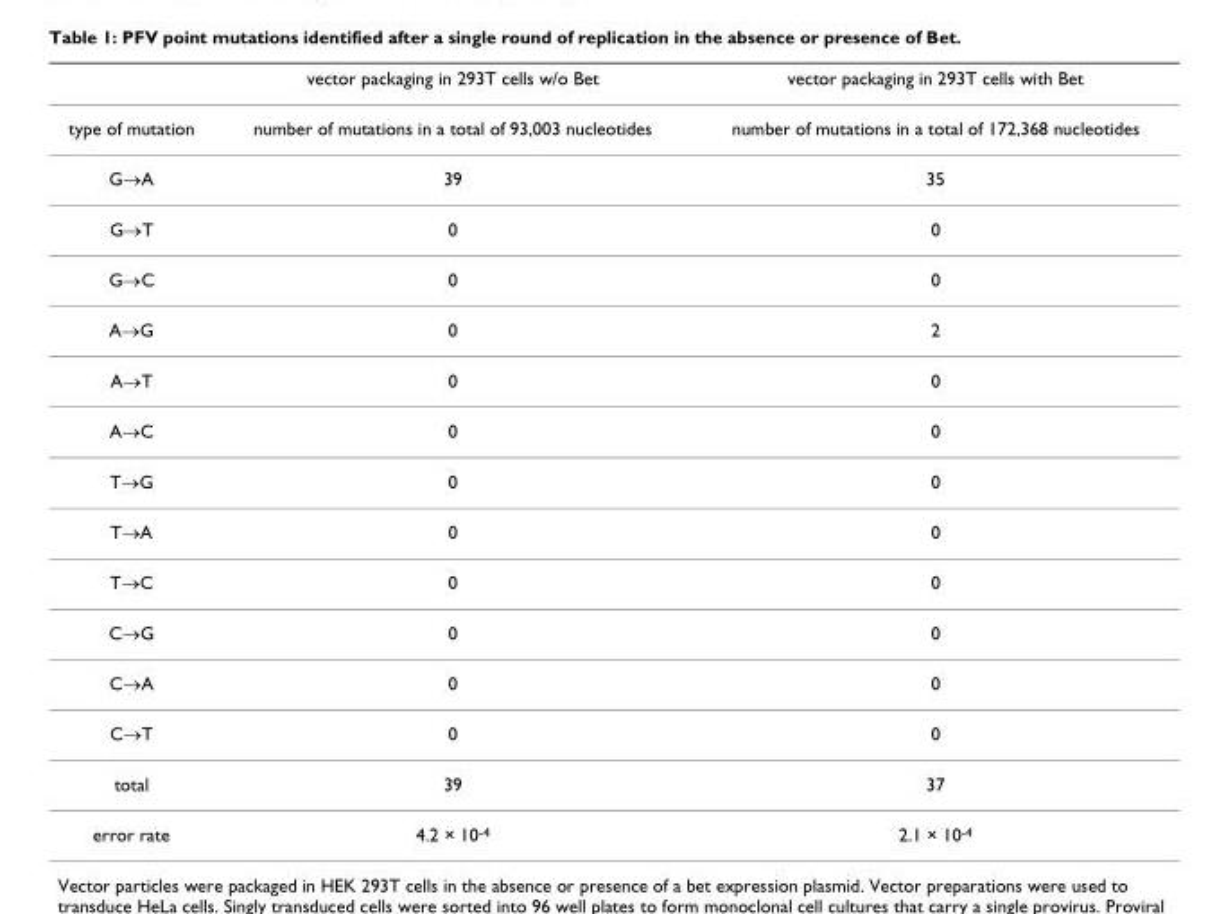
<table><thead><tr><td></td><td>vector packaging in 293T cells w/o Bet</td><td>vector packaging in 293T cells with Bet</td></tr></thead><tbody><tr><td>type of mutation</td><td>number of mutations in a total of 93,003 nucleotides</td><td>number of mutations in a total of 172,368 nucleotides</td></tr><tr><td>G→A</td><td>39</td><td>35</td></tr><tr><td>G→T</td><td>0</td><td>0</td></tr><tr><td>G→C</td><td>0</td><td>0</td></tr><tr><td>A→G</td><td>0</td><td>2</td></tr><tr><td>A→T</td><td>0</td><td>0</td></tr><tr><td>A→C</td><td>0</td><td>0</td></tr><tr><td>T→G</td><td>0</td><td>0</td></tr><tr><td>T→A</td><td>0</td><td>0</td></tr><tr><td>T→C</td><td>0</td><td>0</td></tr><tr><td>C→G</td><td>0</td><td>0</td></tr><tr><td>C→A</td><td>0</td><td>0</td></tr><tr><td>C→T</td><td>0</td><td>0</td></tr><tr><td>total</td><td>39</td><td>37</td></tr><tr><td>error rate</td><td>4.2 × 10<sup>-4</sup></td><td>2.1 × 10<sup>-4</sup></td></tr></tbody></table>